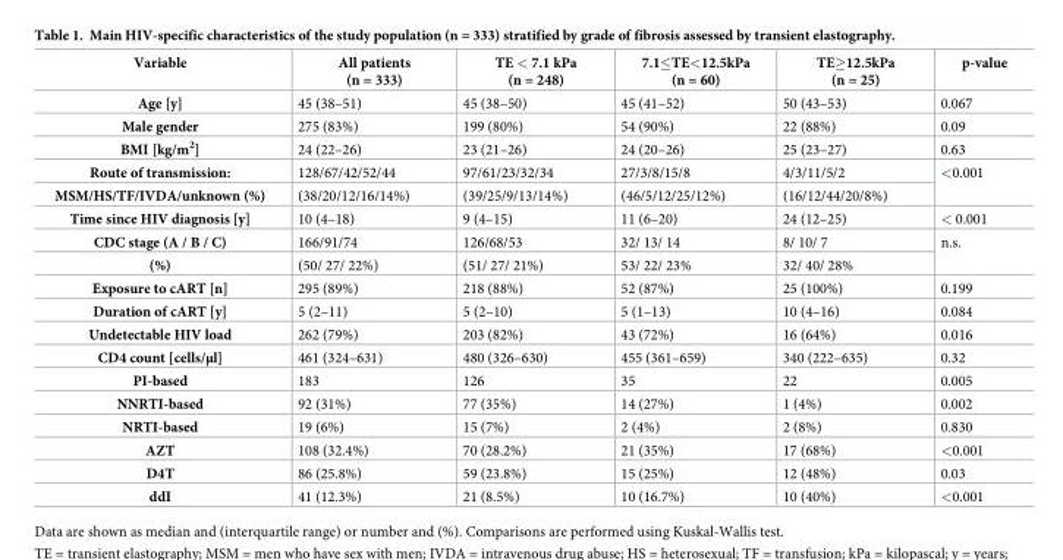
<table><thead><tr><td>Variable</td><td>All patients (n = 333)</td><td>TE &lt; 7.1 kPa (n = 248)</td><td>7.1≤TE&lt;12.5kPa (n = 60)</td><td>TE≥12.5kPa (n = 25)</td><td>p-value</td></tr></thead><tbody><tr><td>Age [y]</td><td>45 (38–51)</td><td>45 (38–50)</td><td>45 (41–52)</td><td>50 (43–53)</td><td>0.067</td></tr><tr><td>Male gender</td><td>275 (83%)</td><td>199 (80%)</td><td>54 (90%)</td><td>22 (88%)</td><td>0.09</td></tr><tr><td>BMI [kg/m<sup>2</sup>]</td><td>24 (22–26)</td><td>23 (21–26)</td><td>24 (20–26)</td><td>25 (23–27)</td><td>0.63</td></tr><tr><td>Route of transmission:</td><td>128/67/42/52/44</td><td>97/61/23/32/34</td><td>27/3/8/15/8</td><td>4/3/11/5/2</td><td rowspan="2">&lt;0.001</td></tr><tr><td>MSM/HS/TF/IVDA/unknown (%)</td><td>(38/20/12/16/14%)</td><td>(39/25/9/13/14%)</td><td>(46/5/12/25/12%)</td><td>(16/12/44/20/8%)</td></tr><tr><td>Time since HIV diagnosis [y]</td><td>10 (4–18)</td><td>9 (4–15)</td><td>11 (6–20)</td><td>24 (12–25)</td><td>&lt; 0.001</td></tr><tr><td>CDC stage (A / B / C)</td><td>166/91/74</td><td>126/68/53</td><td>32/ 13/ 14</td><td>8/ 10/ 7</td><td rowspan="2">n.s.</td></tr><tr><td>(%)</td><td>(50/ 27/ 22%)</td><td>(51/ 27/ 21%)</td><td>53/ 22/ 23%</td><td>32/ 40/ 28%</td></tr><tr><td>Exposure to cART [n]</td><td>295 (89%)</td><td>218 (88%)</td><td>52 (87%)</td><td>25 (100%)</td><td>0.199</td></tr><tr><td>Duration of cART [y]</td><td>5 (2–11)</td><td>5 (2–10)</td><td>5 (1–13)</td><td>10 (4–16)</td><td>0.084</td></tr><tr><td>Undetectable HIV load</td><td>262 (79%)</td><td>203 (82%)</td><td>43 (72%)</td><td>16 (64%)</td><td>0.016</td></tr><tr><td>CD4 count [cells/μl]</td><td>461 (324–631)</td><td>480 (326–630)</td><td>455 (361–659)</td><td>340 (222–635)</td><td>0.32</td></tr><tr><td>PI-based</td><td>183</td><td>126</td><td>35</td><td>22</td><td>0.005</td></tr><tr><td>NNRTI-based</td><td>92 (31%)</td><td>77 (35%)</td><td>14 (27%)</td><td>1 (4%)</td><td>0.002</td></tr><tr><td>NRTI-based</td><td>19 (6%)</td><td>15 (7%)</td><td>2 (4%)</td><td>2 (8%)</td><td>0.830</td></tr><tr><td>AZT</td><td>108 (32.4%)</td><td>70 (28.2%)</td><td>21 (35%)</td><td>17 (68%)</td><td>&lt;0.001</td></tr><tr><td>D4T</td><td>86 (25.8%)</td><td>59 (23.8%)</td><td>15 (25%)</td><td>12 (48%)</td><td>0.03</td></tr><tr><td>ddI</td><td>41 (12.3%)</td><td>21 (8.5%)</td><td>10 (16.7%)</td><td>10 (40%)</td><td>&lt;0.001</td></tr></tbody></table>